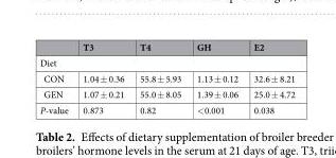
<table><thead><tr><td></td><td>T3</td><td>T4</td><td>GH</td><td>E2</td></tr></thead><tbody><tr><td colspan="5">Diet</td></tr><tr><td>CON</td><td>1.04 ± 0.36</td><td>55.8 ± 5.93</td><td>1.13 ± 0.12</td><td>32.6 ± 8.21</td></tr><tr><td>GEN</td><td>1.07 ± 0.21</td><td>55.0 ± 8.05</td><td>1.39 ± 0.06</td><td>25.0 ± 4.72</td></tr><tr><td>P-value</td><td>0.873</td><td>0.82</td><td>&lt;0.001</td><td>0.038</td></tr></tbody></table>